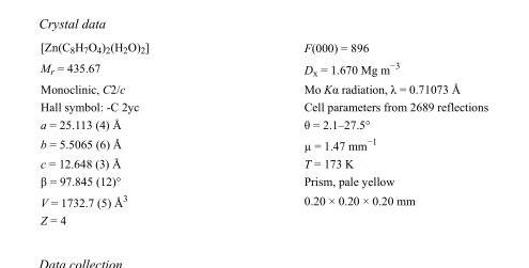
<table><tbody><tr><td>[Zn(C<sub>8</sub>H<sub>7</sub>O<sub>4</sub>)<sub>2</sub>(H<sub>2</sub>O)<sub>2</sub>]</td><td>F(000) = 896</td></tr><tr><td>M<sub>r</sub> = 435.67</td><td>D<sub>x</sub> = 1.670 Mg m<sup>−3</sup></td></tr><tr><td>Monoclinic, C2/c</td><td>Mo Kα radiation, λ = 0.71073 Å</td></tr><tr><td>Hall symbol: -C 2yc</td><td>Cell parameters from 2689 reflections</td></tr><tr><td>a = 25.113 (4) Å</td><td>θ = 2.1–27.5°</td></tr><tr><td>b = 5.5065 (6) Å</td><td>µ = 1.47 mm<sup>−1</sup></td></tr><tr><td>c = 12.648 (3) Å</td><td>T = 173 K</td></tr><tr><td>β = 97.845 (12)°</td><td>Prism, pale yellow</td></tr><tr><td>V = 1732.7 (5) Å<sup>3</sup></td><td>0.20 × 0.20 × 0.20 mm</td></tr><tr><td>Z = 4</td><td></td></tr></tbody></table>